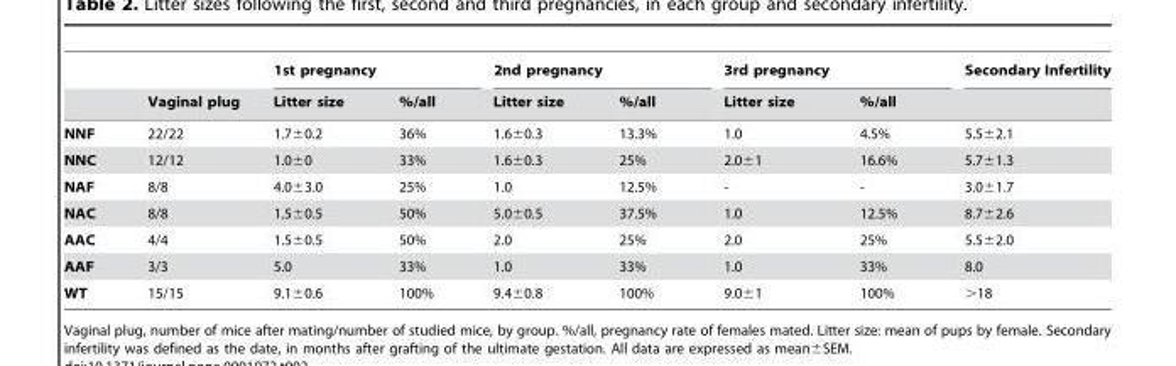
<table><thead><tr><td rowspan="2"></td><td rowspan="2">Vaginal plug</td><td colspan="2">1st pregnancy</td><td colspan="2">2nd pregnancy</td><td colspan="2">3rd pregnancy</td><td rowspan="2">Secondary Infertility</td></tr><tr><td>Litter size</td><td>%/all</td><td>Litter size</td><td>%/all</td><td>Litter size</td><td>%/all</td></tr></thead><tbody><tr><td>NNF</td><td>22/22</td><td>1.7±0.2</td><td>36%</td><td>1.6±0.3</td><td>13.3%</td><td>1.0</td><td>4.5%</td><td>5.5±2.1</td></tr><tr><td>NNC</td><td>12/12</td><td>1.0±0</td><td>33%</td><td>1.6±0.3</td><td>25%</td><td>2.0±1</td><td>16.6%</td><td>5.7±1.3</td></tr><tr><td>NAF</td><td>8/8</td><td>4.0±3.0</td><td>25%</td><td>1.0</td><td>12.5%</td><td>-</td><td>-</td><td>3.0±1.7</td></tr><tr><td>NAC</td><td>8/8</td><td>1.5±0.5</td><td>50%</td><td>5.0±0.5</td><td>37.5%</td><td>1.0</td><td>12.5%</td><td>8.7±2.6</td></tr><tr><td>AAC</td><td>4/4</td><td>1.5±0.5</td><td>50%</td><td>2.0</td><td>25%</td><td>2.0</td><td>25%</td><td>5.5±2.0</td></tr><tr><td>AAF</td><td>3/3</td><td>5.0</td><td>33%</td><td>1.0</td><td>33%</td><td>1.0</td><td>33%</td><td>8.0</td></tr><tr><td>WT</td><td>15/15</td><td>9.1±0.6</td><td>100%</td><td>9.4±0.8</td><td>100%</td><td>9.0±1</td><td>100%</td><td>&gt;18</td></tr></tbody></table>